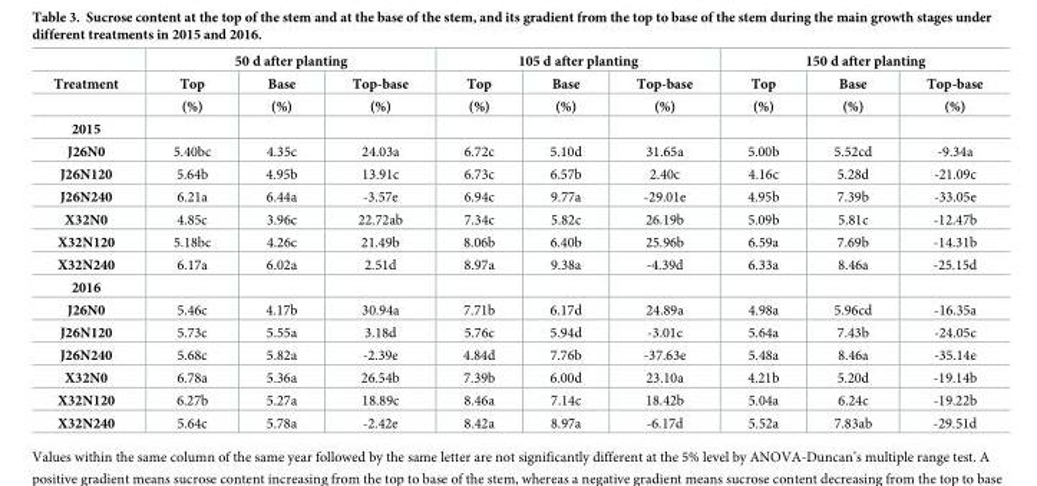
<table><thead><tr><td rowspan="3">Treatment</td><td colspan="3">50 d after planting</td><td colspan="3">105 d after planting</td><td colspan="3">150 d after planting</td></tr><tr><td rowspan="2">Top (%)</td><td rowspan="2">Base (%)</td><td rowspan="2">Top-base (%)</td><td rowspan="2">Top (%)</td><td rowspan="2">Base (%)</td><td rowspan="2">Top-base (%)</td><td rowspan="2">Top (%)</td><td rowspan="2">Base (%)</td><td rowspan="2">Top-base (%)</td></tr><tr></tr></thead><tbody><tr><td colspan="10">2015</td></tr><tr><td>J26N0</td><td>5.40bc</td><td>4.35c</td><td>24.03a</td><td>6.72c</td><td>5.10d</td><td>31.65a</td><td>5.00b</td><td>5.52cd</td><td>-9.34a</td></tr><tr><td>J26N120</td><td>5.64b</td><td>4.95b</td><td>13.91c</td><td>6.73c</td><td>6.57b</td><td>2.40c</td><td>4.16c</td><td>5.28d</td><td>-21.09c</td></tr><tr><td>J26N240</td><td>6.21a</td><td>6.44a</td><td>-3.57e</td><td>6.94c</td><td>9.77a</td><td>-29.01e</td><td>4.95b</td><td>7.39b</td><td>-33.05e</td></tr><tr><td>X32N0</td><td>4.85c</td><td>3.96c</td><td>22.72ab</td><td>7.34c</td><td>5.82c</td><td>26.19b</td><td>5.09b</td><td>5.81c</td><td>-12.47b</td></tr><tr><td>X32N120</td><td>5.18bc</td><td>4.26c</td><td>21.49b</td><td>8.06b</td><td>6.40b</td><td>25.96b</td><td>6.59a</td><td>7.69b</td><td>-14.31b</td></tr><tr><td>X32N240</td><td>6.17a</td><td>6.02a</td><td>2.51d</td><td>8.97a</td><td>9.38a</td><td>-4.39d</td><td>6.33a</td><td>8.46a</td><td>-25.15d</td></tr><tr><td colspan="10">2016</td></tr><tr><td>J26N0</td><td>5.46c</td><td>4.17b</td><td>30.94a</td><td>7.71b</td><td>6.17d</td><td>24.89a</td><td>4.98a</td><td>5.96cd</td><td>-16.35a</td></tr><tr><td>J26N120</td><td>5.73c</td><td>5.55a</td><td>3.18d</td><td>5.76c</td><td>5.94d</td><td>-3.01c</td><td>5.64a</td><td>7.43b</td><td>-24.05c</td></tr><tr><td>J26N240</td><td>5.68c</td><td>5.82a</td><td>-2.39e</td><td>4.84d</td><td>7.76b</td><td>-37.63e</td><td>5.48a</td><td>8.46a</td><td>-35.14e</td></tr><tr><td>X32N0</td><td>6.78a</td><td>5.36a</td><td>26.54b</td><td>7.39b</td><td>6.00d</td><td>23.10a</td><td>4.21b</td><td>5.20d</td><td>-19.14b</td></tr><tr><td>X32N120</td><td>6.27b</td><td>5.27a</td><td>18.89c</td><td>8.46a</td><td>7.14c</td><td>18.42b</td><td>5.04a</td><td>6.24c</td><td>-19.22b</td></tr><tr><td>X32N240</td><td>5.64c</td><td>5.78a</td><td>-2.42e</td><td>8.42a</td><td>8.97a</td><td>-6.17d</td><td>5.52a</td><td>7.83ab</td><td>-29.51d</td></tr></tbody></table>